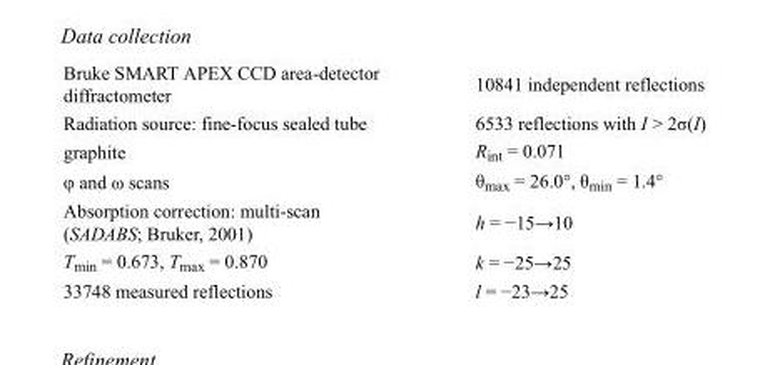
<table><tbody><tr><td>Bruke SMART APEX CCD area-detector diffractometer</td><td>10841 independent reflections</td></tr><tr><td>Radiation source: fine-focus sealed tube</td><td>6533 reflections with I &gt; 2σ(I)</td></tr><tr><td>graphite</td><td>R<sub>int</sub> = 0.071</td></tr><tr><td>φ and ω scans</td><td>θ<sub>max</sub> = 26.0°, θ<sub>min</sub> = 1.4°</td></tr><tr><td>Absorption correction: multi-scan (SADABS; Bruker, 2001)</td><td>h = −15→10</td></tr><tr><td>T<sub>min</sub> = 0.673, T<sub>max</sub> = 0.870</td><td>k = −25→25</td></tr><tr><td>33748 measured reflections</td><td>l = −23→25</td></tr></tbody></table>